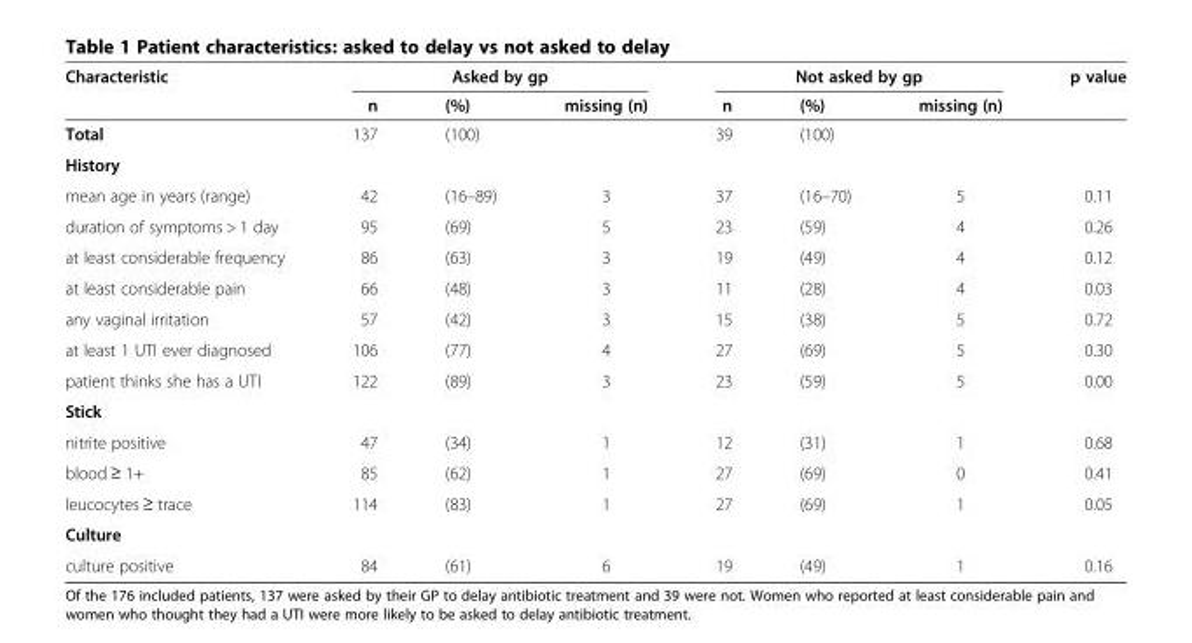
<table><thead><tr><td rowspan="2">Characteristic</td><td colspan="3">Asked by gp</td><td colspan="3">Not asked by gp</td><td rowspan="2">p value</td></tr><tr><td>n</td><td>(%)</td><td>missing (n)</td><td>n</td><td>(%)</td><td>missing (n)</td></tr></thead><tbody><tr><td>Total</td><td>137</td><td>(100)</td><td></td><td>39</td><td>(100)</td><td></td><td></td></tr><tr><td colspan="8">History</td></tr><tr><td>mean age in years (range)</td><td>42</td><td>(16–89)</td><td>3</td><td>37</td><td>(16–70)</td><td>5</td><td>0.11</td></tr><tr><td>duration of symptoms &gt; 1 day</td><td>95</td><td>(69)</td><td>5</td><td>23</td><td>(59)</td><td>4</td><td>0.26</td></tr><tr><td>at least considerable frequency</td><td>86</td><td>(63)</td><td>3</td><td>19</td><td>(49)</td><td>4</td><td>0.12</td></tr><tr><td>at least considerable pain</td><td>66</td><td>(48)</td><td>3</td><td>11</td><td>(28)</td><td>4</td><td>0.03</td></tr><tr><td>any vaginal irritation</td><td>57</td><td>(42)</td><td>3</td><td>15</td><td>(38)</td><td>5</td><td>0.72</td></tr><tr><td>at least 1 UTI ever diagnosed</td><td>106</td><td>(77)</td><td>4</td><td>27</td><td>(69)</td><td>5</td><td>0.30</td></tr><tr><td>patient thinks she has a UTI</td><td>122</td><td>(89)</td><td>3</td><td>23</td><td>(59)</td><td>5</td><td>0.00</td></tr><tr><td colspan="8">Stick</td></tr><tr><td>nitrite positive</td><td>47</td><td>(34)</td><td>1</td><td>12</td><td>(31)</td><td>1</td><td>0.68</td></tr><tr><td>blood ≥ 1+</td><td>85</td><td>(62)</td><td>1</td><td>27</td><td>(69)</td><td>0</td><td>0.41</td></tr><tr><td>leucocytes ≥ trace</td><td>114</td><td>(83)</td><td>1</td><td>27</td><td>(69)</td><td>1</td><td>0.05</td></tr><tr><td colspan="8">Culture</td></tr><tr><td>culture positive</td><td>84</td><td>(61)</td><td>6</td><td>19</td><td>(49)</td><td>1</td><td>0.16</td></tr></tbody></table>